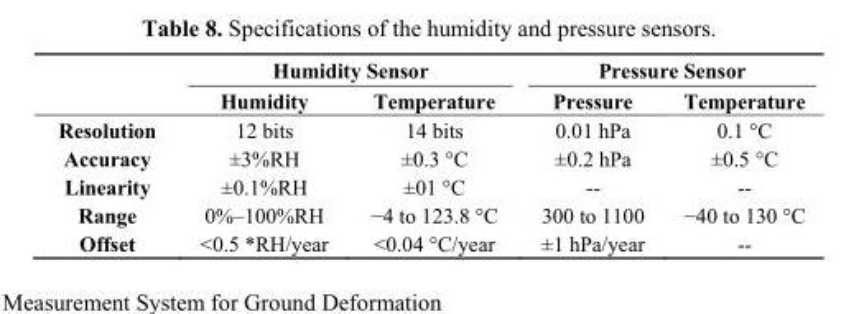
<table><thead><tr><td rowspan="2"></td><td colspan="2">Humidity Sensor</td><td colspan="2">Pressure Sensor</td></tr><tr><td>Humidity</td><td>Temperature</td><td>Pressure</td><td>Temperature</td></tr></thead><tbody><tr><td>Resolution</td><td>12 bits</td><td>14 bits</td><td>0.01 hPa</td><td>0.1 °C</td></tr><tr><td>Accuracy</td><td>±3%RH</td><td>±0.3 °C</td><td>±0.2 hPa</td><td>±0.5 °C</td></tr><tr><td>Linearity</td><td>±0.1%RH</td><td>±01 °C</td><td>--</td><td>--</td></tr><tr><td>Range</td><td>0%–100%RH</td><td>−4 to 123.8 °C</td><td>300 to 1100</td><td>−40 to 130 °C</td></tr><tr><td>Offset</td><td>&lt;0.5 *RH/year</td><td>&lt;0.04 °C/year</td><td>±1 hPa/year</td><td>--</td></tr></tbody></table>